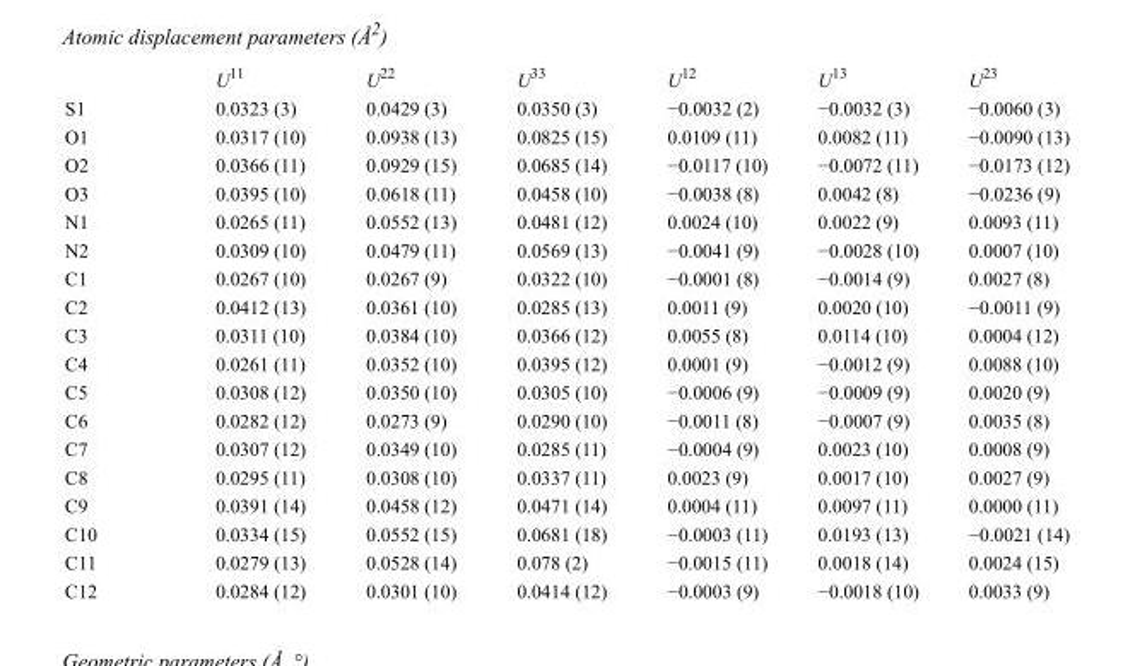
<table><thead><tr><td></td><td>U<sup>11</sup></td><td>U<sup>22</sup></td><td>U<sup>33</sup></td><td>U<sup>12</sup></td><td>U<sup>13</sup></td><td>U<sup>23</sup></td></tr></thead><tbody><tr><td>S1</td><td>0.0323 (3)</td><td>0.0429 (3)</td><td>0.0350 (3)</td><td>−0.0032 (2)</td><td>−0.0032 (3)</td><td>−0.0060 (3)</td></tr><tr><td>O1</td><td>0.0317 (10)</td><td>0.0938 (13)</td><td>0.0825 (15)</td><td>0.0109 (11)</td><td>0.0082 (11)</td><td>−0.0090 (13)</td></tr><tr><td>O2</td><td>0.0366 (11)</td><td>0.0929 (15)</td><td>0.0685 (14)</td><td>−0.0117 (10)</td><td>−0.0072 (11)</td><td>−0.0173 (12)</td></tr><tr><td>O3</td><td>0.0395 (10)</td><td>0.0618 (11)</td><td>0.0458 (10)</td><td>−0.0038 (8)</td><td>0.0042 (8)</td><td>−0.0236 (9)</td></tr><tr><td>N1</td><td>0.0265 (11)</td><td>0.0552 (13)</td><td>0.0481 (12)</td><td>0.0024 (10)</td><td>0.0022 (9)</td><td>0.0093 (11)</td></tr><tr><td>N2</td><td>0.0309 (10)</td><td>0.0479 (11)</td><td>0.0569 (13)</td><td>−0.0041 (9)</td><td>−0.0028 (10)</td><td>0.0007 (10)</td></tr><tr><td>C1</td><td>0.0267 (10)</td><td>0.0267 (9)</td><td>0.0322 (10)</td><td>−0.0001 (8)</td><td>−0.0014 (9)</td><td>0.0027 (8)</td></tr><tr><td>C2</td><td>0.0412 (13)</td><td>0.0361 (10)</td><td>0.0285 (13)</td><td>0.0011 (9)</td><td>0.0020 (10)</td><td>−0.0011 (9)</td></tr><tr><td>C3</td><td>0.0311 (10)</td><td>0.0384 (10)</td><td>0.0366 (12)</td><td>0.0055 (8)</td><td>0.0114 (10)</td><td>0.0004 (12)</td></tr><tr><td>C4</td><td>0.0261 (11)</td><td>0.0352 (10)</td><td>0.0395 (12)</td><td>0.0001 (9)</td><td>−0.0012 (9)</td><td>0.0088 (10)</td></tr><tr><td>C5</td><td>0.0308 (12)</td><td>0.0350 (10)</td><td>0.0305 (10)</td><td>−0.0006 (9)</td><td>−0.0009 (9)</td><td>0.0020 (9)</td></tr><tr><td>C6</td><td>0.0282 (12)</td><td>0.0273 (9)</td><td>0.0290 (10)</td><td>−0.0011 (8)</td><td>−0.0007 (9)</td><td>0.0035 (8)</td></tr><tr><td>C7</td><td>0.0307 (12)</td><td>0.0349 (10)</td><td>0.0285 (11)</td><td>−0.0004 (9)</td><td>0.0023 (10)</td><td>0.0008 (9)</td></tr><tr><td>C8</td><td>0.0295 (11)</td><td>0.0308 (10)</td><td>0.0337 (11)</td><td>0.0023 (9)</td><td>0.0017 (10)</td><td>0.0027 (9)</td></tr><tr><td>C9</td><td>0.0391 (14)</td><td>0.0458 (12)</td><td>0.0471 (14)</td><td>0.0004 (11)</td><td>0.0097 (11)</td><td>0.0000 (11)</td></tr><tr><td>C10</td><td>0.0334 (15)</td><td>0.0552 (15)</td><td>0.0681 (18)</td><td>−0.0003 (11)</td><td>0.0193 (13)</td><td>−0.0021 (14)</td></tr><tr><td>C11</td><td>0.0279 (13)</td><td>0.0528 (14)</td><td>0.078 (2)</td><td>−0.0015 (11)</td><td>0.0018 (14)</td><td>0.0024 (15)</td></tr><tr><td>C12</td><td>0.0284 (12)</td><td>0.0301 (10)</td><td>0.0414 (12)</td><td>−0.0003 (9)</td><td>−0.0018 (10)</td><td>0.0033 (9)</td></tr></tbody></table>